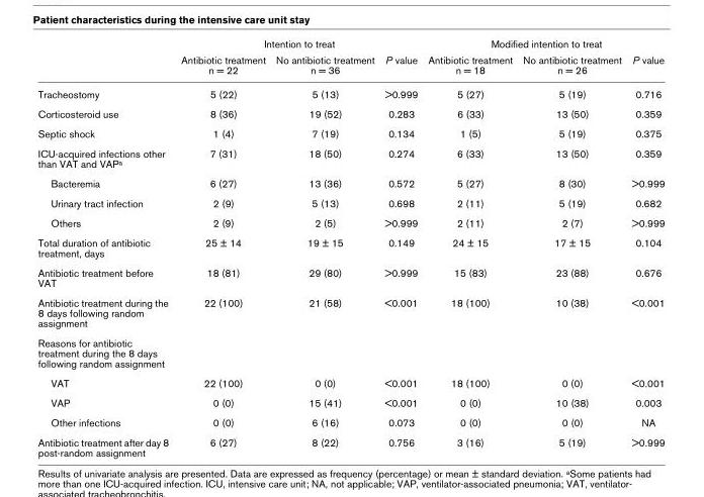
<table><thead><tr><td rowspan="2"></td><td colspan="3">Intention to treat</td><td colspan="3">Modified intention to treat</td></tr><tr><td>Antibiotic treatment n = 22</td><td>No antibiotic treatment n = 36</td><td>P value</td><td>Antibiotic treatment n = 18</td><td>No antibiotic treatment n = 26</td><td>P value</td></tr></thead><tbody><tr><td>Tracheostomy</td><td>5 (22)</td><td>5 (13)</td><td>&gt;0.999</td><td>5 (27)</td><td>5 (19)</td><td>0.716</td></tr><tr><td>Corticosteroid use</td><td>8 (36)</td><td>19 (52)</td><td>0.283</td><td>6 (33)</td><td>13 (50)</td><td>0.359</td></tr><tr><td>Septic shock</td><td>1 (4)</td><td>7 (19)</td><td>0.134</td><td>1 (5)</td><td>5 (19)</td><td>0.375</td></tr><tr><td>ICU-acquired infections other than VAT and VAP<sup>a</sup></td><td>7 (31)</td><td>18 (50)</td><td>0.274</td><td>6 (33)</td><td>13 (50)</td><td>0.359</td></tr><tr><td>Bacteremia</td><td>6 (27)</td><td>13 (36)</td><td>0.572</td><td>5 (27)</td><td>8 (30)</td><td>&gt;0.999</td></tr><tr><td>Urinary tract infection</td><td>2 (9)</td><td>5 (13)</td><td>0.698</td><td>2 (11)</td><td>5 (19)</td><td>0.682</td></tr><tr><td>Others</td><td>2 (9)</td><td>2 (5)</td><td>&gt;0.999</td><td>2 (11)</td><td>2 (7)</td><td>&gt;0.999</td></tr><tr><td>Total duration of antibiotic treatment, days</td><td>25 ± 14</td><td>19 ± 15</td><td>0.149</td><td>24 ± 15</td><td>17 ± 15</td><td>0.104</td></tr><tr><td>Antibiotic treatment before VAT</td><td>18 (81)</td><td>29 (80)</td><td>&gt;0.999</td><td>15 (83)</td><td>23 (88)</td><td>0.676</td></tr><tr><td>Antibiotic treatment during the 8 days following random assignment</td><td>22 (100)</td><td>21 (58)</td><td>&lt;0.001</td><td>18 (100)</td><td>10 (38)</td><td>&lt;0.001</td></tr><tr><td colspan="7">Reasons for antibiotic treatment during the 8 days following random assignment</td></tr><tr><td>VAT</td><td>22 (100)</td><td>0 (0)</td><td>&lt;0.001</td><td>18 (100)</td><td>0 (0)</td><td>&lt;0.001</td></tr><tr><td>VAP</td><td>0 (0)</td><td>15 (41)</td><td>&lt;0.001</td><td>0 (0)</td><td>10 (38)</td><td>0.003</td></tr><tr><td>Other infections</td><td>0 (0)</td><td>6 (16)</td><td>0.073</td><td>0 (0)</td><td>0 (0)</td><td>NA</td></tr><tr><td>Antibiotic treatment after day 8 post-random assignment</td><td>6 (27)</td><td>8 (22)</td><td>0.756</td><td>3 (16)</td><td>5 (19)</td><td>&gt;0.999</td></tr></tbody></table>